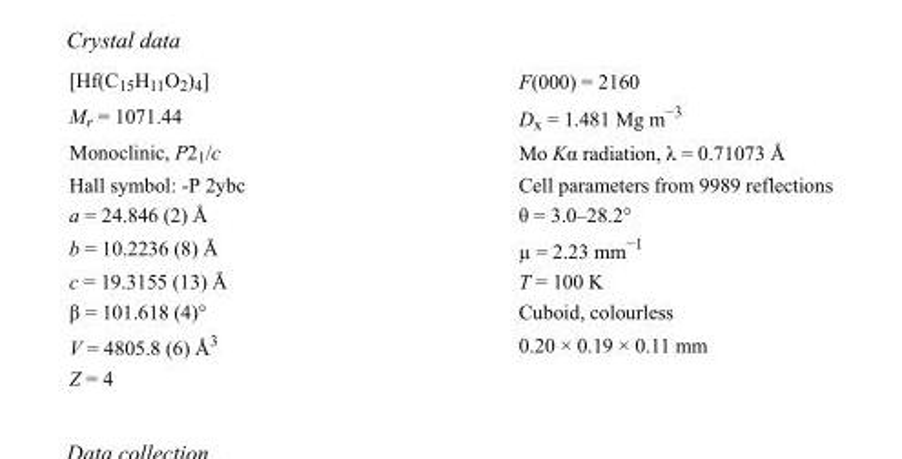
<table><tbody><tr><td>[Hf(C<sub>15</sub>H<sub>11</sub>O<sub>2</sub>)<sub>4</sub>]</td><td>F(000) = 2160</td></tr><tr><td>M<sub>r</sub> = 1071.44</td><td>D<sub>x</sub> = 1.481 Mg m<sup>−3</sup></td></tr><tr><td>Monoclinic, P2<sub>1</sub>/c</td><td>Mo Kα radiation, λ = 0.71073 Å</td></tr><tr><td>Hall symbol: -P 2ybc</td><td>Cell parameters from 9989 reflections</td></tr><tr><td>a = 24.846 (2) Å</td><td>θ = 3.0–28.2°</td></tr><tr><td>b = 10.2236 (8) Å</td><td>µ = 2.23 mm<sup>−1</sup></td></tr><tr><td>c = 19.3155 (13) Å</td><td>T = 100 K</td></tr><tr><td>β = 101.618 (4)°</td><td>Cuboid, colourless</td></tr><tr><td>V = 4805.8 (6) Å<sup>3</sup></td><td>0.20 × 0.19 × 0.11 mm</td></tr><tr><td>Z = 4</td><td></td></tr></tbody></table>